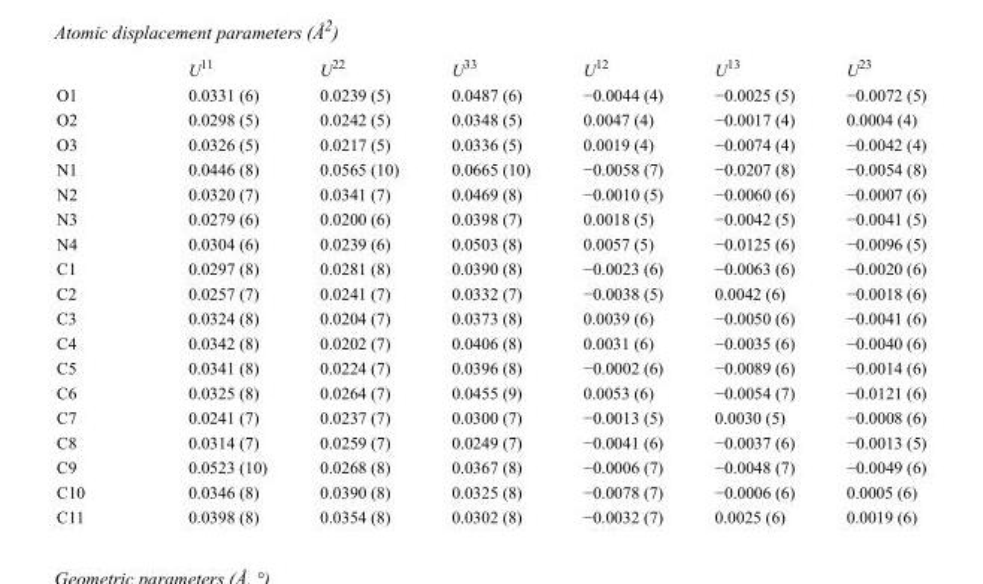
<table><thead><tr><td></td><td>U<sup>11</sup></td><td>U<sup>22</sup></td><td>U<sup>33</sup></td><td>U<sup>12</sup></td><td>U<sup>13</sup></td><td>U<sup>23</sup></td></tr></thead><tbody><tr><td>O1</td><td>0.0331 (6)</td><td>0.0239 (5)</td><td>0.0487 (6)</td><td>−0.0044 (4)</td><td>−0.0025 (5)</td><td>−0.0072 (5)</td></tr><tr><td>O2</td><td>0.0298 (5)</td><td>0.0242 (5)</td><td>0.0348 (5)</td><td>0.0047 (4)</td><td>−0.0017 (4)</td><td>0.0004 (4)</td></tr><tr><td>O3</td><td>0.0326 (5)</td><td>0.0217 (5)</td><td>0.0336 (5)</td><td>0.0019 (4)</td><td>−0.0074 (4)</td><td>−0.0042 (4)</td></tr><tr><td>N1</td><td>0.0446 (8)</td><td>0.0565 (10)</td><td>0.0665 (10)</td><td>−0.0058 (7)</td><td>−0.0207 (8)</td><td>−0.0054 (8)</td></tr><tr><td>N2</td><td>0.0320 (7)</td><td>0.0341 (7)</td><td>0.0469 (8)</td><td>−0.0010 (5)</td><td>−0.0060 (6)</td><td>−0.0007 (6)</td></tr><tr><td>N3</td><td>0.0279 (6)</td><td>0.0200 (6)</td><td>0.0398 (7)</td><td>0.0018 (5)</td><td>−0.0042 (5)</td><td>−0.0041 (5)</td></tr><tr><td>N4</td><td>0.0304 (6)</td><td>0.0239 (6)</td><td>0.0503 (8)</td><td>0.0057 (5)</td><td>−0.0125 (6)</td><td>−0.0096 (5)</td></tr><tr><td>C1</td><td>0.0297 (8)</td><td>0.0281 (8)</td><td>0.0390 (8)</td><td>−0.0023 (6)</td><td>−0.0063 (6)</td><td>−0.0020 (6)</td></tr><tr><td>C2</td><td>0.0257 (7)</td><td>0.0241 (7)</td><td>0.0332 (7)</td><td>−0.0038 (5)</td><td>0.0042 (6)</td><td>−0.0018 (6)</td></tr><tr><td>C3</td><td>0.0324 (8)</td><td>0.0204 (7)</td><td>0.0373 (8)</td><td>0.0039 (6)</td><td>−0.0050 (6)</td><td>−0.0041 (6)</td></tr><tr><td>C4</td><td>0.0342 (8)</td><td>0.0202 (7)</td><td>0.0406 (8)</td><td>0.0031 (6)</td><td>−0.0035 (6)</td><td>−0.0040 (6)</td></tr><tr><td>C5</td><td>0.0341 (8)</td><td>0.0224 (7)</td><td>0.0396 (8)</td><td>−0.0002 (6)</td><td>−0.0089 (6)</td><td>−0.0014 (6)</td></tr><tr><td>C6</td><td>0.0325 (8)</td><td>0.0264 (7)</td><td>0.0455 (9)</td><td>0.0053 (6)</td><td>−0.0054 (7)</td><td>−0.0121 (6)</td></tr><tr><td>C7</td><td>0.0241 (7)</td><td>0.0237 (7)</td><td>0.0300 (7)</td><td>−0.0013 (5)</td><td>0.0030 (5)</td><td>−0.0008 (6)</td></tr><tr><td>C8</td><td>0.0314 (7)</td><td>0.0259 (7)</td><td>0.0249 (7)</td><td>−0.0041 (6)</td><td>−0.0037 (6)</td><td>−0.0013 (5)</td></tr><tr><td>C9</td><td>0.0523 (10)</td><td>0.0268 (8)</td><td>0.0367 (8)</td><td>−0.0006 (7)</td><td>−0.0048 (7)</td><td>−0.0049 (6)</td></tr><tr><td>C10</td><td>0.0346 (8)</td><td>0.0390 (8)</td><td>0.0325 (8)</td><td>−0.0078 (7)</td><td>−0.0006 (6)</td><td>0.0005 (6)</td></tr><tr><td>C11</td><td>0.0398 (8)</td><td>0.0354 (8)</td><td>0.0302 (8)</td><td>−0.0032 (7)</td><td>0.0025 (6)</td><td>0.0019 (6)</td></tr></tbody></table>